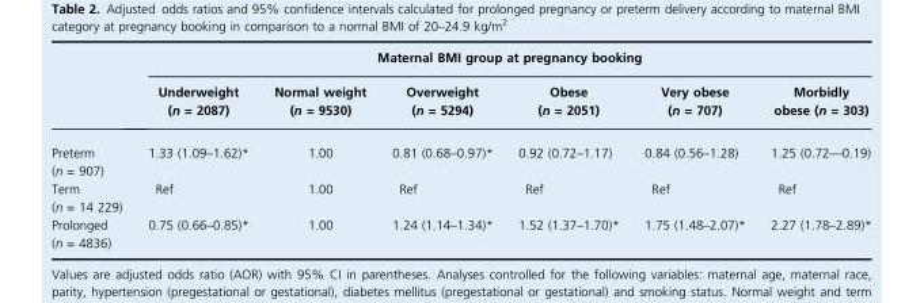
<table><thead><tr><td rowspan="2"></td><td colspan="6">Maternal BMI group at pregnancy booking</td></tr><tr><td>Underweight (n = 2087)</td><td>Normal weight (n = 9530)</td><td>Overweight (n = 5294)</td><td>Obese (n = 2051)</td><td>Very obese (n = 707)</td><td>Morbidly obese (n = 303)</td></tr></thead><tbody><tr><td>Preterm (n = 907)</td><td>1.33 (1.09–1.62)*</td><td>1.00</td><td>0.81 (0.68–0.97)*</td><td>0.92 (0.72–1.17)</td><td>0.84 (0.56–1.28)</td><td>1.25 (0.72—0.19)</td></tr><tr><td>Term (n = 14 229)</td><td>Ref</td><td>1.00</td><td>Ref</td><td>Ref</td><td>Ref</td><td>Ref</td></tr><tr><td>Prolonged (n = 4836)</td><td>0.75 (0.66–0.85)*</td><td>1.00</td><td>1.24 (1.14–1.34)*</td><td>1.52 (1.37–1.70)*</td><td>1.75 (1.48–2.07)*</td><td>2.27 (1.78–2.89)*</td></tr></tbody></table>